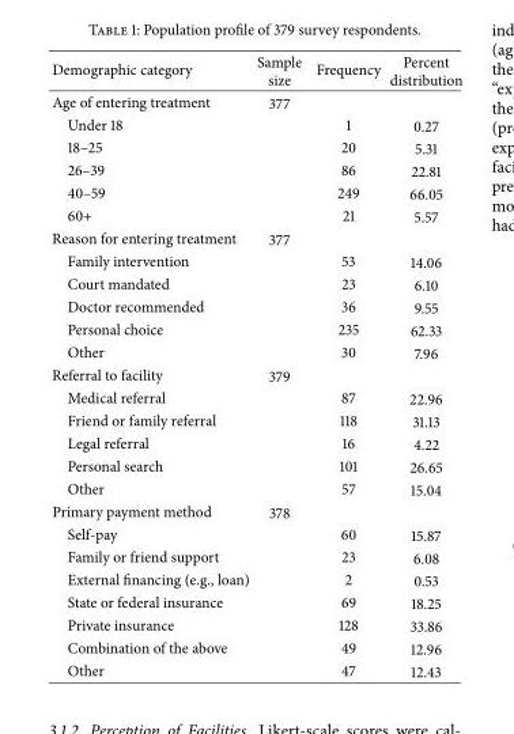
<table><thead><tr><td>Demographic category</td><td>Sample size</td><td>Frequency</td><td>Percent distribution</td></tr></thead><tbody><tr><td>Age of entering treatment</td><td>377</td><td></td><td></td></tr><tr><td>Under 18</td><td></td><td>1</td><td>0.27</td></tr><tr><td>18–25</td><td></td><td>20</td><td>5.31</td></tr><tr><td>26–39</td><td></td><td>86</td><td>22.81</td></tr><tr><td>40–59</td><td></td><td>249</td><td>66.05</td></tr><tr><td>60+</td><td></td><td>21</td><td>5.57</td></tr><tr><td>Reason for entering treatment</td><td>377</td><td></td><td></td></tr><tr><td>Family intervention</td><td></td><td>53</td><td>14.06</td></tr><tr><td>Court mandated</td><td></td><td>23</td><td>6.10</td></tr><tr><td>Doctor recommended</td><td></td><td>36</td><td>9.55</td></tr><tr><td>Personal choice</td><td></td><td>235</td><td>62.33</td></tr><tr><td>Other</td><td></td><td>30</td><td>7.96</td></tr><tr><td>Referral to facility</td><td>379</td><td></td><td></td></tr><tr><td>Medical referral</td><td></td><td>87</td><td>22.96</td></tr><tr><td>Friend or family referral</td><td></td><td>118</td><td>31.13</td></tr><tr><td>Legal referral</td><td></td><td>16</td><td>4.22</td></tr><tr><td>Personal search</td><td></td><td>101</td><td>26.65</td></tr><tr><td>Other</td><td></td><td>57</td><td>15.04</td></tr><tr><td>Primary payment method</td><td>378</td><td></td><td></td></tr><tr><td>Self-pay</td><td></td><td>60</td><td>15.87</td></tr><tr><td>Family or friend support</td><td></td><td>23</td><td>6.08</td></tr><tr><td>External financing (e.g., loan)</td><td></td><td>2</td><td>0.53</td></tr><tr><td>State or federal insurance</td><td></td><td>69</td><td>18.25</td></tr><tr><td>Private insurance</td><td></td><td>128</td><td>33.86</td></tr><tr><td>Combination of the above</td><td></td><td>49</td><td>12.96</td></tr><tr><td>Other</td><td></td><td>47</td><td>12.43</td></tr></tbody></table>